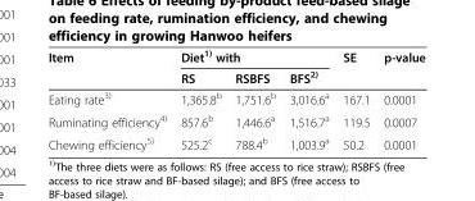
<table><thead><tr><td rowspan="2">Item</td><td colspan="3">Diet<sup>1)</sup> with</td><td rowspan="2">SE</td><td rowspan="2">p-value</td></tr><tr><td>RS</td><td>RSBFS</td><td>BFS<sup>2)</sup></td></tr></thead><tbody><tr><td>Eating rate<sup>3)</sup></td><td>1,365.8<sup>b</sup></td><td>1,751.6<sup>b</sup></td><td>3,016.6<sup>a</sup></td><td>167.1</td><td>0.0001</td></tr><tr><td>Ruminating efficiency<sup>4)</sup></td><td>857.6<sup>b</sup></td><td>1,446.6<sup>a</sup></td><td>1,516.7<sup>a</sup></td><td>119.5</td><td>0.0007</td></tr><tr><td>Chewing efficiency<sup>5)</sup></td><td>525.2<sup>c</sup></td><td>788.4<sup>b</sup></td><td>1,003.9<sup>a</sup></td><td>50.2</td><td>0.0001</td></tr></tbody></table>